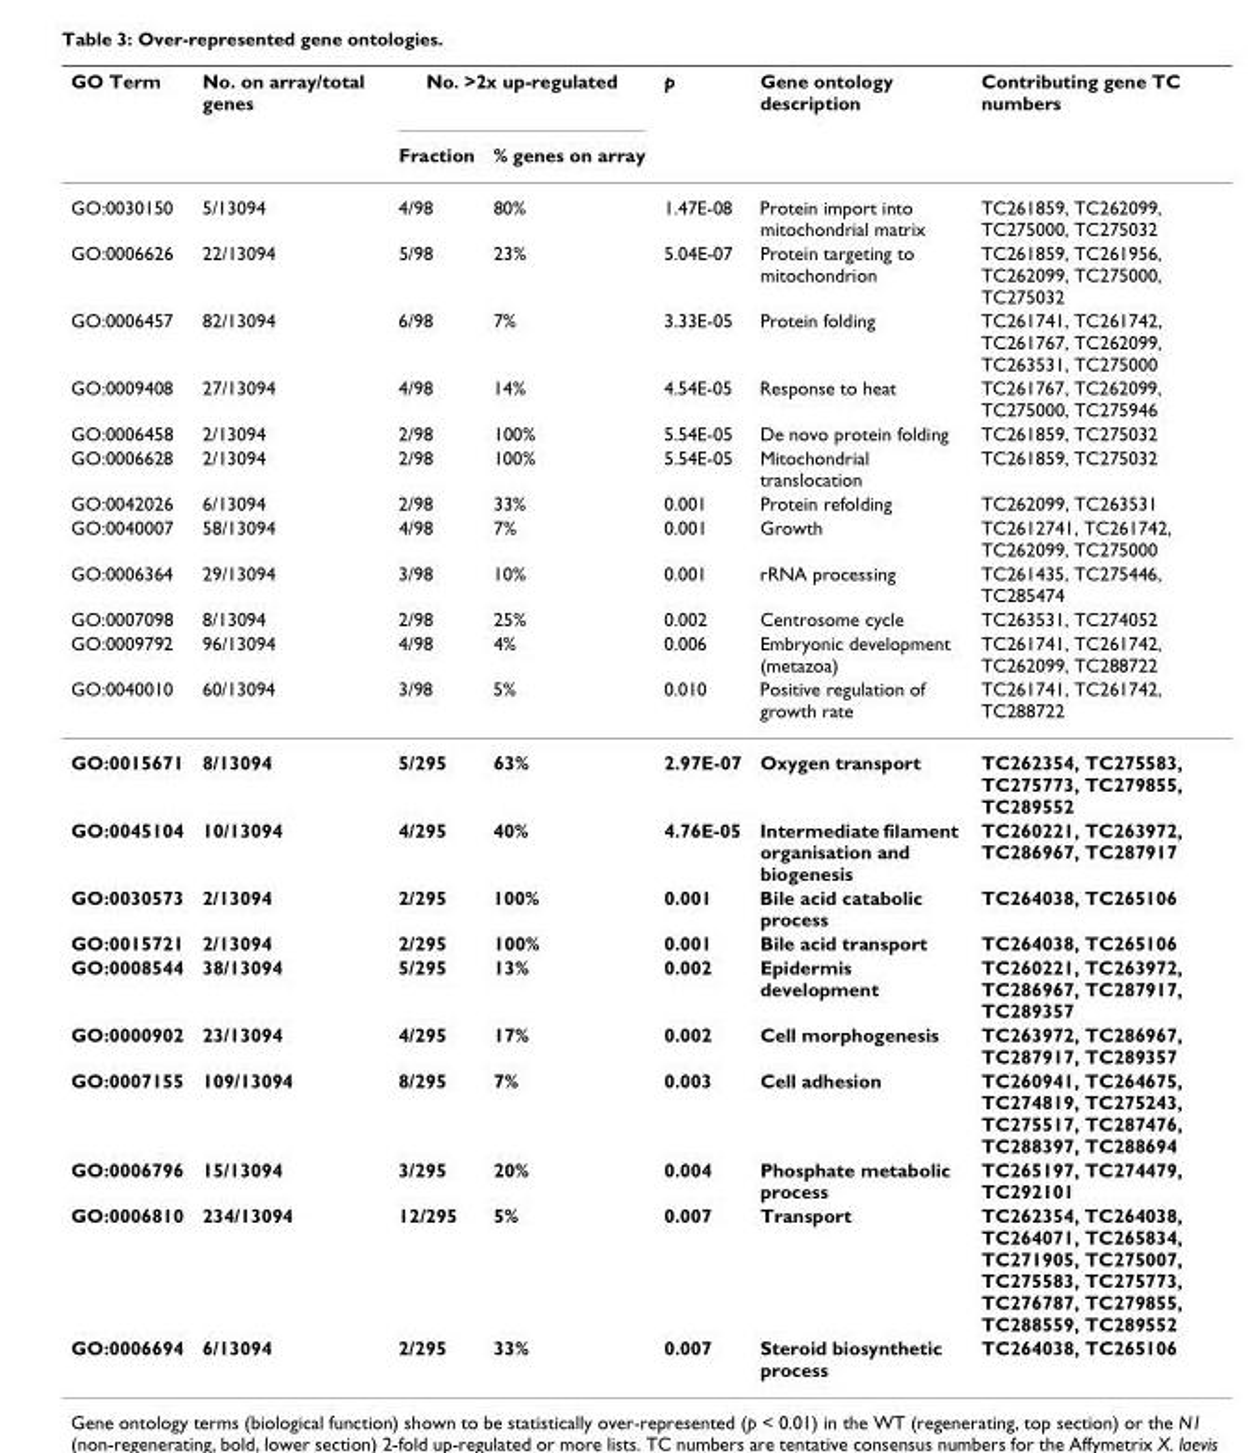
<table><thead><tr><td rowspan="2">GO Term</td><td rowspan="2">No. on array/total genes</td><td colspan="2">No. &gt;2x up-regulated</td><td rowspan="2">p</td><td rowspan="2">Gene ontology description</td><td rowspan="2">Contributing gene TC numbers</td></tr><tr><td>Fraction</td><td>% genes on array</td></tr></thead><tbody><tr><td>GO:0030150</td><td>5/13094</td><td>4/98</td><td>80%</td><td>1.47E-08</td><td>Protein import into mitochondrial matrix</td><td>TC261859, TC262099, TC275000, TC275032</td></tr><tr><td>GO:0006626</td><td>22/13094</td><td>5/98</td><td>23%</td><td>5.04E-07</td><td>Protein targeting to mitochondrion</td><td>TC261859, TC261956, TC262099, TC275000, TC275032</td></tr><tr><td>GO:0006457</td><td>82/13094</td><td>6/98</td><td>7%</td><td>3.33E-05</td><td>Protein folding</td><td>TC261741, TC261742, TC261767, TC262099, TC263531, TC275000</td></tr><tr><td>GO:0009408</td><td>27/13094</td><td>4/98</td><td>14%</td><td>4.54E-05</td><td>Response to heat</td><td>TC261767, TC262099, TC275000, TC275946</td></tr><tr><td>GO:0006458</td><td>2/13094</td><td>2/98</td><td>100%</td><td>5.54E-05</td><td>De novo protein folding</td><td>TC261859, TC275032</td></tr><tr><td>GO:0006628</td><td>2/13094</td><td>2/98</td><td>100%</td><td>5.54E-05</td><td>Mitochondrial translocation</td><td>TC261859, TC275032</td></tr><tr><td>GO:0042026</td><td>6/13094</td><td>2/98</td><td>33%</td><td>0.001</td><td>Protein refolding</td><td>TC262099, TC263531</td></tr><tr><td>GO:0040007</td><td>58/13094</td><td>4/98</td><td>7%</td><td>0.001</td><td>Growth</td><td>TC2612741, TC261742, TC262099, TC275000</td></tr><tr><td>GO:0006364</td><td>29/13094</td><td>3/98</td><td>10%</td><td>0.001</td><td>rRNA processing</td><td>TC261435, TC275446, TC285474</td></tr><tr><td>GO:0007098</td><td>8/13094</td><td>2/98</td><td>25%</td><td>0.002</td><td>Centrosome cycle</td><td>TC263531, TC274052</td></tr><tr><td>GO:0009792</td><td>96/13094</td><td>4/98</td><td>4%</td><td>0.006</td><td>Embryonic development (metazoa)</td><td>TC261741, TC261742, TC262099, TC288722</td></tr><tr><td>GO:0040010</td><td>60/13094</td><td>3/98</td><td>5%</td><td>0.010</td><td>Positive regulation of growth rate</td><td>TC261741, TC261742, TC288722</td></tr><tr><td>GO:0015671</td><td>8/13094</td><td>5/295</td><td>63%</td><td>2.97E-07</td><td>Oxygen transport</td><td>TC262354, TC275583, TC275773, TC279855, TC289552</td></tr><tr><td>GO:0045104</td><td>10/13094</td><td>4/295</td><td>40%</td><td>4.76E-05</td><td>Intermediate filament organisation and biogenesis</td><td>TC260221, TC263972, TC286967, TC287917</td></tr><tr><td>GO:0030573</td><td>2/13094</td><td>2/295</td><td>100%</td><td>0.001</td><td>Bile acid catabolic process</td><td>TC264038, TC265106</td></tr><tr><td>GO:0015721</td><td>2/13094</td><td>2/295</td><td>100%</td><td>0.001</td><td>Bile acid transport</td><td>TC264038, TC265106</td></tr><tr><td>GO:0008544</td><td>38/13094</td><td>5/295</td><td>13%</td><td>0.002</td><td>Epidermis development</td><td>TC260221, TC263972, TC286967, TC287917, TC289357</td></tr><tr><td>GO:0000902</td><td>23/13094</td><td>4/295</td><td>17%</td><td>0.002</td><td>Cell morphogenesis</td><td>TC263972, TC286967, TC287917, TC289357</td></tr><tr><td>GO:0007155</td><td>109/13094</td><td>8/295</td><td>7%</td><td>0.003</td><td>Cell adhesion</td><td>TC260941, TC264675, TC274819, TC275243, TC275517, TC287476, TC288397, TC288694</td></tr><tr><td>GO:0006796</td><td>15/13094</td><td>3/295</td><td>20%</td><td>0.004</td><td>Phosphate metabolic process</td><td>TC265197, TC274479, TC292101</td></tr><tr><td>GO:0006810</td><td>234/13094</td><td>12/295</td><td>5%</td><td>0.007</td><td>Transport</td><td>TC262354, TC264038, TC264071, TC265834, TC271905, TC275007, TC275583, TC275773, TC276787, TC279855, TC288559, TC289552</td></tr><tr><td>GO:0006694</td><td>6/13094</td><td>2/295</td><td>33%</td><td>0.007</td><td>Steroid biosynthetic process</td><td>TC264038, TC265106</td></tr></tbody></table>